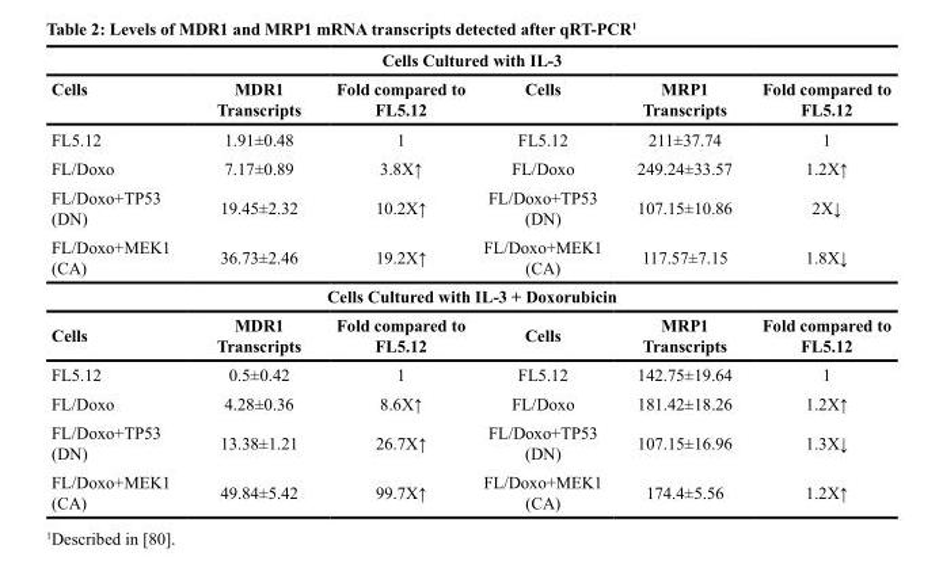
<table><thead><tr><td colspan="6">Cells Cultured with IL-3</td></tr><tr><td>Cells</td><td>MDR1 Transcripts</td><td>Fold compared to FL5.12</td><td>Cells</td><td>MRP1 Transcripts</td><td>Fold compared to FL5.12</td></tr></thead><tbody><tr><td>FL5.12</td><td>1.91±0.48</td><td>1</td><td>FL5.12</td><td>211±37.74</td><td>1</td></tr><tr><td>FL/Doxo</td><td>7.17±0.89</td><td>3.8X↑</td><td>FL/Doxo</td><td>249.24±33.57</td><td>1.2X↑</td></tr><tr><td>FL/Doxo+TP53 (DN)</td><td>19.45±2.32</td><td>10.2X↑</td><td>FL/Doxo+TP53 (DN)</td><td>107.15±10.86</td><td>2X↓</td></tr><tr><td>FL/Doxo+MEK1 (CA)</td><td>36.73±2.46</td><td>19.2X↑</td><td>FL/Doxo+MEK1 (CA)</td><td>117.57±7.15</td><td>1.8X↓</td></tr><tr><td colspan="6">Cells Cultured with IL-3 + Doxorubicin</td></tr><tr><td>Cells</td><td>MDR1 Transcripts</td><td>Fold compared to FL5.12</td><td>Cells</td><td>MRP1 Transcripts</td><td>Fold compared to FL5.12</td></tr><tr><td>FL5.12</td><td>0.5±0.42</td><td>1</td><td>FL5.12</td><td>142.75±19.64</td><td>1</td></tr><tr><td>FL/Doxo</td><td>4.28±0.36</td><td>8.6X↑</td><td>FL/Doxo</td><td>181.42±18.26</td><td>1.2X↑</td></tr><tr><td>FL/Doxo+TP53 (DN)</td><td>13.38±1.21</td><td>26.7X↑</td><td>FL/Doxo+TP53 (DN)</td><td>107.15±16.96</td><td>1.3X↓</td></tr><tr><td>FL/Doxo+MEK1 (CA)</td><td>49.84±5.42</td><td>99.7X↑</td><td>FL/Doxo+MEK1 (CA)</td><td>174.4±5.56</td><td>1.2X↑</td></tr></tbody></table>